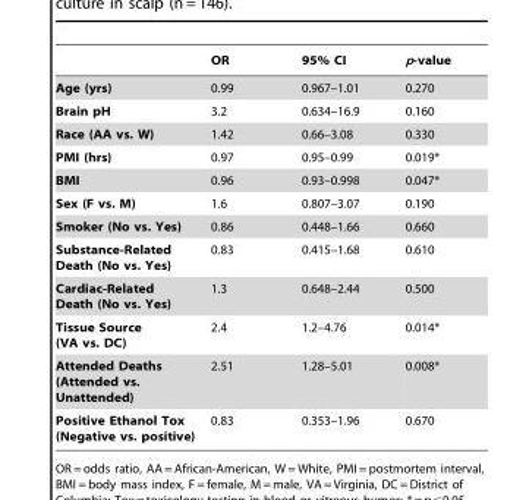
<table><thead><tr><td></td><td>OR</td><td>95% CI</td><td>p-value</td></tr></thead><tbody><tr><td>Age (yrs)</td><td>0.99</td><td>0.967–1.01</td><td>0.270</td></tr><tr><td>Brain pH</td><td>3.2</td><td>0.634–16.9</td><td>0.160</td></tr><tr><td>Race (AA vs. W)</td><td>1.42</td><td>0.66–3.08</td><td>0.330</td></tr><tr><td>PMI (hrs)</td><td>0.97</td><td>0.95–0.99</td><td>0.019*</td></tr><tr><td>BMI</td><td>0.96</td><td>0.93–0.998</td><td>0.047*</td></tr><tr><td>Sex (F vs. M)</td><td>1.6</td><td>0.807–3.07</td><td>0.190</td></tr><tr><td>Smoker (No vs. Yes)</td><td>0.86</td><td>0.448–1.66</td><td>0.660</td></tr><tr><td>Substance-Related Death (No vs. Yes)</td><td>0.83</td><td>0.415–1.68</td><td>0.610</td></tr><tr><td>Cardiac-Related Death (No vs. Yes)</td><td>1.3</td><td>0.648–2.44</td><td>0.500</td></tr><tr><td>Tissue Source (VA vs. DC)</td><td>2.4</td><td>1.2–4.76</td><td>0.014*</td></tr><tr><td>Attended Deaths (Attended vs. Unattended)</td><td>2.51</td><td>1.28–5.01</td><td>0.008*</td></tr><tr><td>Positive Ethanol Tox (Negative vs. positive)</td><td>0.83</td><td>0.353–1.96</td><td>0.670</td></tr></tbody></table>